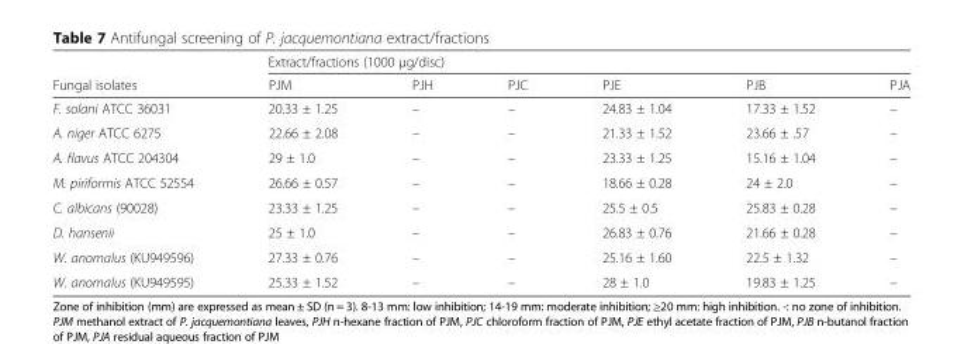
<table><thead><tr><td rowspan="2">Fungal isolates</td><td colspan="6">Extract/fractions (1000 μg/disc)</td></tr><tr><td>PJM</td><td>PJH</td><td>PJC</td><td>PJE</td><td>PJB</td><td>PJA</td></tr></thead><tbody><tr><td>F. solani ATCC 36031</td><td>20.33 ± 1.25</td><td>–</td><td>–</td><td>24.83 ± 1.04</td><td>17.33 ± 1.52</td><td>–</td></tr><tr><td>A. niger ATCC 6275</td><td>22.66 ± 2.08</td><td>–</td><td>–</td><td>21.33 ± 1.52</td><td>23.66 ± .57</td><td>–</td></tr><tr><td>A. flavus ATCC 204304</td><td>29 ± 1.0</td><td>–</td><td>–</td><td>23.33 ± 1.25</td><td>15.16 ± 1.04</td><td>–</td></tr><tr><td>M. piriformis ATCC 52554</td><td>26.66 ± 0.57</td><td>–</td><td>–</td><td>18.66 ± 0.28</td><td>24 ± 2.0</td><td>–</td></tr><tr><td>C. albicans (90028)</td><td>23.33 ± 1.25</td><td>–</td><td>–</td><td>25.5 ± 0.5</td><td>25.83 ± 0.28</td><td>–</td></tr><tr><td>D. hansenii</td><td>25 ± 1.0</td><td>–</td><td>–</td><td>26.83 ± 0.76</td><td>21.66 ± 0.28</td><td>–</td></tr><tr><td>W. anomalus (KU949596)</td><td>27.33 ± 0.76</td><td>–</td><td>–</td><td>25.16 ± 1.60</td><td>22.5 ± 1.32</td><td>–</td></tr><tr><td>W. anomalus (KU949595)</td><td>25.33 ± 1.52</td><td>–</td><td>–</td><td>28 ± 1.0</td><td>19.83 ± 1.25</td><td>–</td></tr></tbody></table>